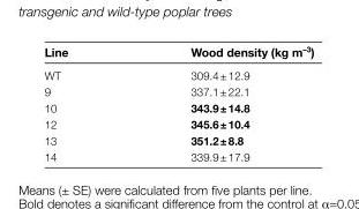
<table><thead><tr><td>Line</td><td>Wood density (kg m<sup>–3</sup>)</td></tr></thead><tbody><tr><td>WT</td><td>309.4 ± 12.9</td></tr><tr><td>9</td><td>337.1 ± 22.1</td></tr><tr><td>10</td><td>343.9 ± 14.8</td></tr><tr><td>12</td><td>345.6 ± 10.4</td></tr><tr><td>13</td><td>351.2 ± 8.8</td></tr><tr><td>14</td><td>339.9 ± 17.9</td></tr></tbody></table>